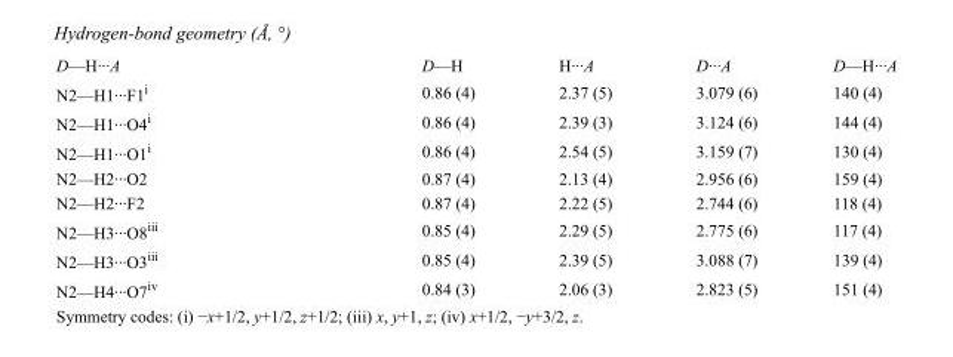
<table><tbody><tr><td>D—H···A</td><td>D—H</td><td>H···A</td><td>D···A</td><td>D—H···A</td></tr><tr><td>N2—H1···F1<sup>i</sup></td><td>0.86 (4)</td><td>2.37 (5)</td><td>3.079 (6)</td><td>140 (4)</td></tr><tr><td>N2—H1···O4<sup>i</sup></td><td>0.86 (4)</td><td>2.39 (3)</td><td>3.124 (6)</td><td>144 (4)</td></tr><tr><td>N2—H1···O1<sup>i</sup></td><td>0.86 (4)</td><td>2.54 (5)</td><td>3.159 (7)</td><td>130 (4)</td></tr><tr><td>N2—H2···O2</td><td>0.87 (4)</td><td>2.13 (4)</td><td>2.956 (6)</td><td>159 (4)</td></tr><tr><td>N2—H2···F2</td><td>0.87 (4)</td><td>2.22 (5)</td><td>2.744 (6)</td><td>118 (4)</td></tr><tr><td>N2—H3···O8<sup>iii</sup></td><td>0.85 (4)</td><td>2.29 (5)</td><td>2.775 (6)</td><td>117 (4)</td></tr><tr><td>N2—H3···O3<sup>iii</sup></td><td>0.85 (4)</td><td>2.39 (5)</td><td>3.088 (7)</td><td>139 (4)</td></tr><tr><td>N2—H4···O7<sup>iv</sup></td><td>0.84 (3)</td><td>2.06 (3)</td><td>2.823 (5)</td><td>151 (4)</td></tr></tbody></table>